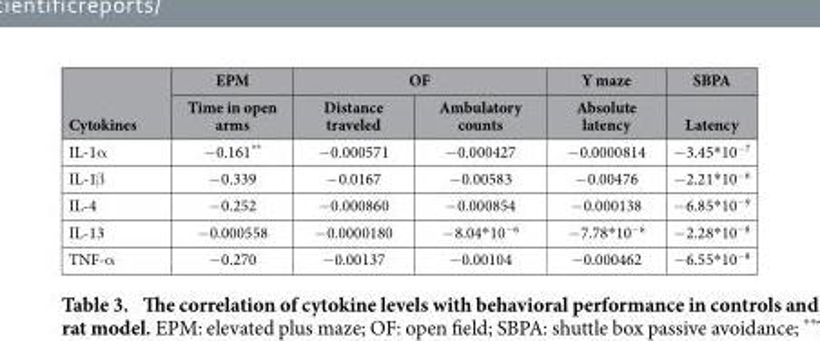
<table><thead><tr><td rowspan="2">Cytokines</td><td rowspan="2">EPM Time in open arms</td><td colspan="2">OF</td><td rowspan="2">Y maze Absolute latency</td><td rowspan="2">SBPA Latency</td></tr><tr><td>Distance traveled</td><td>Ambulatory counts</td></tr></thead><tbody><tr><td>IL-1α</td><td>− 0.161**</td><td>− 0.000571</td><td>− 0.000427</td><td>− 0.0000814</td><td>− 3.45* 10<sup>−7</sup></td></tr><tr><td>IL-1β</td><td>− 0.339</td><td>− 0.0167</td><td>− 0.00583</td><td>− 0.00476</td><td>− 2.21* 10<sup>−6</sup></td></tr><tr><td>IL-4</td><td>− 0.252</td><td>− 0.000860</td><td>− 0.000854</td><td>− 0.000138</td><td>− 6.85* 10<sup>−9</sup></td></tr><tr><td>IL-13</td><td>− 0.000558</td><td>− 0.0000180</td><td>− 8.04* 10<sup>−6</sup></td><td>− 7.78* 10<sup>−6</sup></td><td>− 2.28* 10<sup>−8</sup></td></tr><tr><td>TNF-α</td><td>− 0.270</td><td>− 0.00137</td><td>− 0.00104</td><td>− 0.000462</td><td>− 6.55* 10<sup>−8</sup></td></tr></tbody></table>